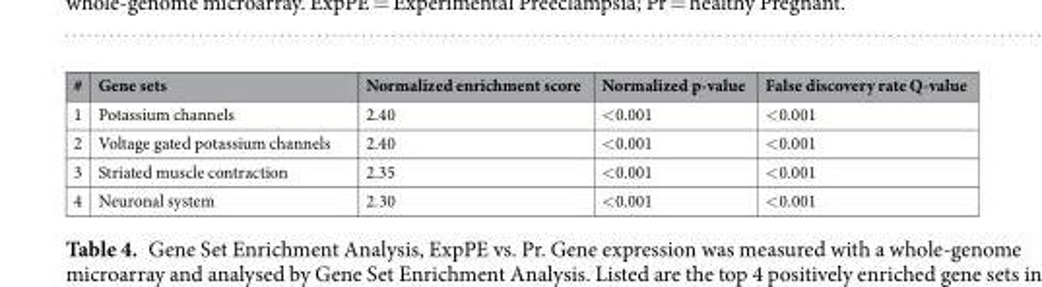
<table><thead><tr><td>#</td><td>Gene sets</td><td>Normalized enrichment score</td><td>Normalized p-value</td><td>False discovery rate Q-value</td></tr></thead><tbody><tr><td>1</td><td>Potassium channels</td><td>2.40</td><td>&lt;0.001</td><td>&lt;0.001</td></tr><tr><td>2</td><td>Voltage gated potassium channels</td><td>2.40</td><td>&lt;0.001</td><td>&lt;0.001</td></tr><tr><td>3</td><td>Striated muscle contraction</td><td>2.35</td><td>&lt;0.001</td><td>&lt;0.001</td></tr><tr><td>4</td><td>Neuronal system</td><td>2.30</td><td>&lt;0.001</td><td>&lt;0.001</td></tr></tbody></table>